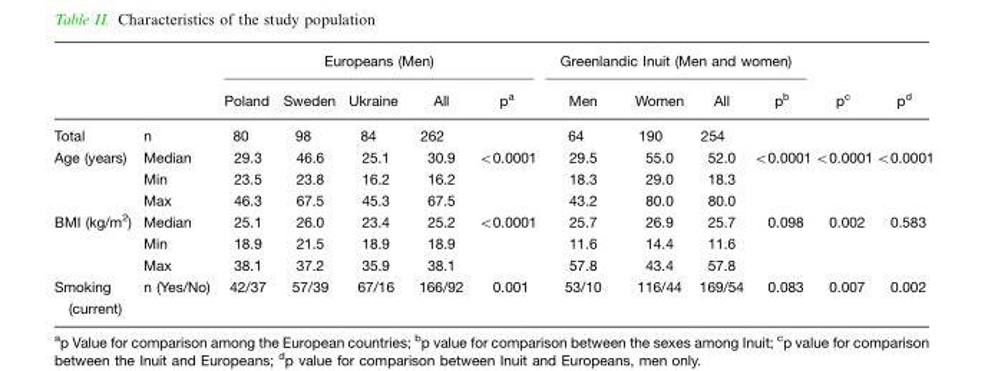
<table><thead><tr><td rowspan="2"></td><td rowspan="2"></td><td colspan="5">Europeans (Men)</td><td colspan="4">Greenlandic Inuit (Men and women)</td><td rowspan="2">p<sup>c</sup></td><td rowspan="2">p<sup>d</sup></td></tr><tr><td>Poland</td><td>Sweden</td><td>Ukraine</td><td>All</td><td>p<sup>a</sup></td><td>Men</td><td>Women</td><td>All</td><td>p<sup>b</sup></td></tr></thead><tbody><tr><td>Total</td><td>n</td><td>80</td><td>98</td><td>84</td><td>262</td><td></td><td>64</td><td>190</td><td>254</td><td></td><td></td><td></td></tr><tr><td rowspan="3">Age (years)</td><td>Median</td><td>29.3</td><td>46.6</td><td>25.1</td><td>30.9</td><td>&lt;0.0001</td><td>29.5</td><td>55.0</td><td>52.0</td><td>&lt;0.0001</td><td>&lt;0.0001</td><td>&lt;0.0001</td></tr><tr><td>Min</td><td>23.5</td><td>23.8</td><td>16.2</td><td>16.2</td><td></td><td>18.3</td><td>29.0</td><td>18.3</td><td></td><td></td><td></td></tr><tr><td>Max</td><td>46.3</td><td>67.5</td><td>45.3</td><td>67.5</td><td></td><td>43.2</td><td>80.0</td><td>80.0</td><td></td><td></td><td></td></tr><tr><td rowspan="3">BMI (kg/m<sup>2</sup>)</td><td>Median</td><td>25.1</td><td>26.0</td><td>23.4</td><td>25.2</td><td>&lt;0.0001</td><td>25.7</td><td>26.9</td><td>25.7</td><td>0.098</td><td>0.002</td><td>0.583</td></tr><tr><td>Min</td><td>18.9</td><td>21.5</td><td>18.9</td><td>18.9</td><td></td><td>11.6</td><td>14.4</td><td>11.6</td><td></td><td></td><td></td></tr><tr><td>Max</td><td>38.1</td><td>37.2</td><td>35.9</td><td>38.1</td><td></td><td>57.8</td><td>43.4</td><td>57.8</td><td></td><td></td><td></td></tr><tr><td>Smoking (current)</td><td>n (Yes/No)</td><td>42/37</td><td>57/39</td><td>67/16</td><td>166/92</td><td>0.001</td><td>53/10</td><td>116/44</td><td>169/54</td><td>0.083</td><td>0.007</td><td>0.002</td></tr></tbody></table>